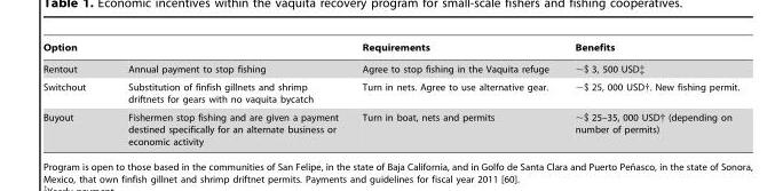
<table><thead><tr><td>Option</td><td></td><td>Requirements</td><td>Benefits</td></tr></thead><tbody><tr><td>Rentout</td><td>Annual payment to stop fishing</td><td>Agree to stop fishing in the Vaquita refuge</td><td>∼$ 3, 500 USD‡</td></tr><tr><td>Switchout</td><td>Substitution of finfish gillnets and shrimp driftnets for gears with no vaquita bycatch</td><td>Turn in nets. Agree to use alternative gear.</td><td>∼$ 25, 000 USD†. New fishing permit.</td></tr><tr><td>Buyout</td><td>Fishermen stop fishing and are given a payment destined specifically for an alternate business or economic activity</td><td>Turn in boat, nets and permits</td><td>∼$ 25–35, 000 USD† (depending on number of permits)</td></tr></tbody></table>